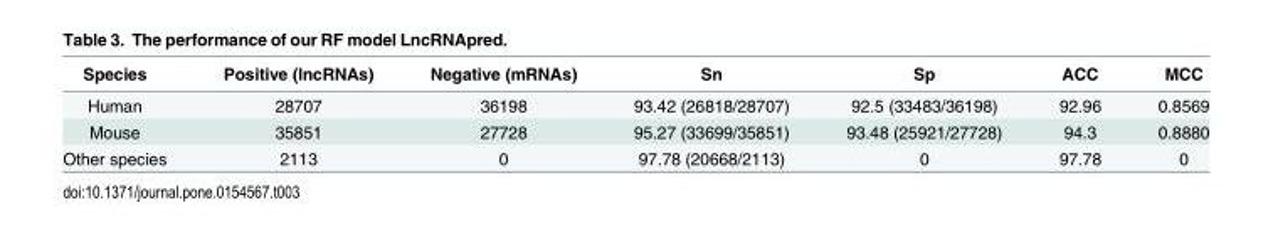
<table><thead><tr><td>Species</td><td>Positive (lncRNAs)</td><td>Negative (mRNAs)</td><td>Sn</td><td>Sp</td><td>ACC</td><td>MCC</td></tr></thead><tbody><tr><td>Human</td><td>28707</td><td>36198</td><td>93.42 (26818/28707)</td><td>92.5 (33483/36198)</td><td>92.96</td><td>0.8569</td></tr><tr><td>Mouse</td><td>35851</td><td>27728</td><td>95.27 (33699/35851)</td><td>93.48 (25921/27728)</td><td>94.3</td><td>0.8880</td></tr><tr><td>Other species</td><td>2113</td><td>0</td><td>97.78 (20668/2113)</td><td>0</td><td>97.78</td><td>0</td></tr></tbody></table>